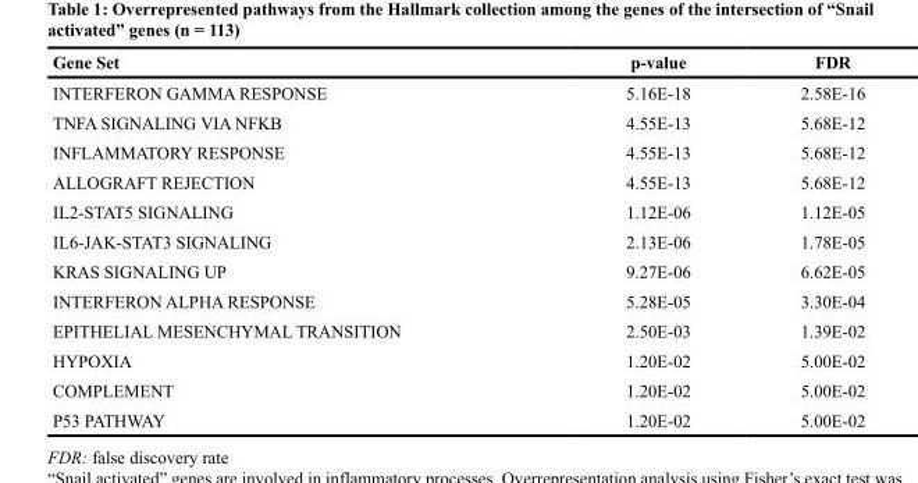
<table><thead><tr><td>Gene Set</td><td>p-value</td><td>FDR</td></tr></thead><tbody><tr><td>INTERFERON GAMMA RESPONSE</td><td>5.16E-18</td><td>2.58E-16</td></tr><tr><td>TNFA SIGNALING VIA NFKB</td><td>4.55E-13</td><td>5.68E-12</td></tr><tr><td>INFLAMMATORY RESPONSE</td><td>4.55E-13</td><td>5.68E-12</td></tr><tr><td>ALLOGRAFT REJECTION</td><td>4.55E-13</td><td>5.68E-12</td></tr><tr><td>IL2-STAT5 SIGNALING</td><td>1.12E-06</td><td>1.12E-05</td></tr><tr><td>IL6-JAK-STAT3 SIGNALING</td><td>2.13E-06</td><td>1.78E-05</td></tr><tr><td>KRAS SIGNALING UP</td><td>9.27E-06</td><td>6.62E-05</td></tr><tr><td>INTERFERON ALPHA RESPONSE</td><td>5.28E-05</td><td>3.30E-04</td></tr><tr><td>EPITHELIAL MESENCHYMAL TRANSITION</td><td>2.50E-03</td><td>1.39E-02</td></tr><tr><td>HYPOXIA</td><td>1.20E-02</td><td>5.00E-02</td></tr><tr><td>COMPLEMENT</td><td>1.20E-02</td><td>5.00E-02</td></tr><tr><td>P53 PATHWAY</td><td>1.20E-02</td><td>5.00E-02</td></tr></tbody></table>